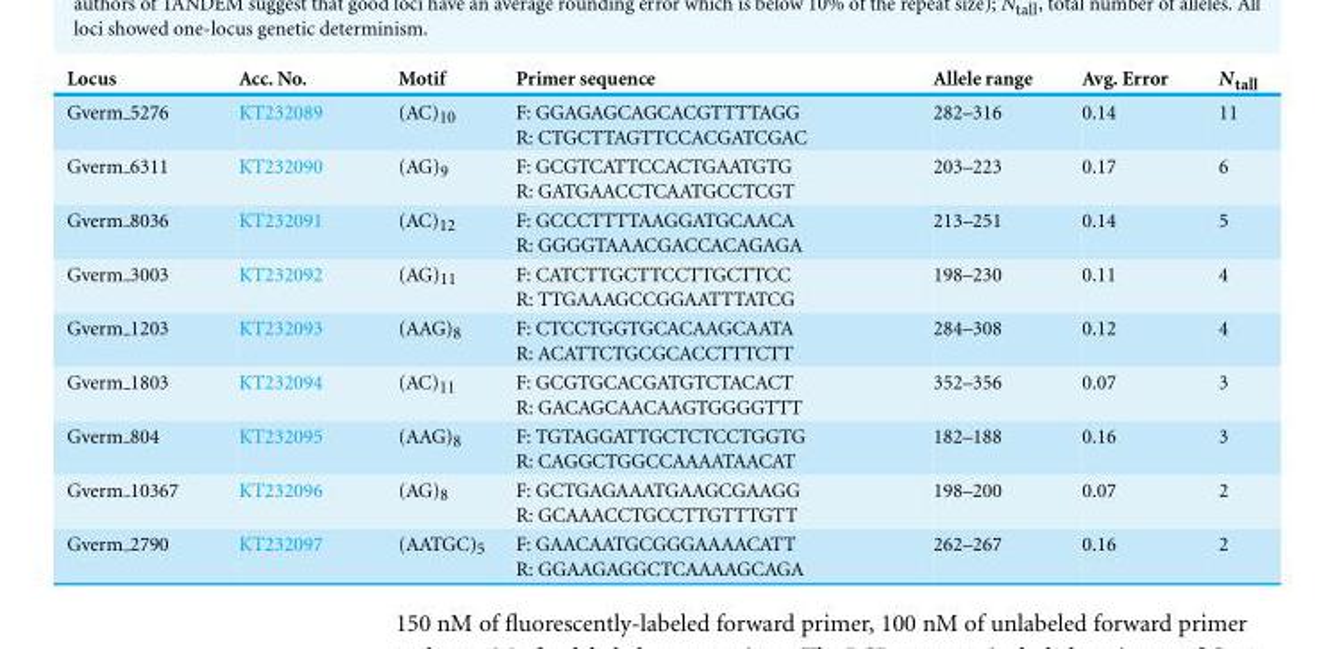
<table><thead><tr><td>Locus</td><td>Acc. No.</td><td>Motif</td><td>Primer sequence</td><td>Allele range</td><td>Avg. Error</td><td>N<sub>tall</sub></td></tr></thead><tbody><tr><td>Gverm 5276</td><td>KT232089</td><td>(AC)<sub>10</sub></td><td>F: GGAGAGCAGCACGTTTTAGG R: CTGCTTAGTTCCACGATCGAC</td><td>282–316</td><td>0.14</td><td>11</td></tr><tr><td>Gverm 6311</td><td>KT232090</td><td>(AG)<sub>9</sub></td><td>F: GCGTCATTCCACTGAATGTG R: GATGAACCTCAATGCCTCGT</td><td>203–223</td><td>0.17</td><td>6</td></tr><tr><td>Gverm 8036</td><td>KT232091</td><td>(AC)<sub>12</sub></td><td>F: GCCCTTTTAAGGATGCAACA R: GGGGTAAACGACCACAGAGA</td><td>213–251</td><td>0.14</td><td>5</td></tr><tr><td>Gverm 3003</td><td>KT232092</td><td>(AG)<sub>11</sub></td><td>F: CATCTTGCTTCCTTGCTTCC R: TTGAAAGCCGGAATTTATCG</td><td>198–230</td><td>0.11</td><td>4</td></tr><tr><td>Gverm 1203</td><td>KT232093</td><td>(AAG)<sub>8</sub></td><td>F: CTCCTGGTGCACAAGCAATA R: ACATTCTGCGCACCTTTCTT</td><td>284–308</td><td>0.12</td><td>4</td></tr><tr><td>Gverm 1803</td><td>KT232094</td><td>(AC)<sub>11</sub></td><td>F: GCGTGCACGATGTCTACACT R: GACAGCAACAAGTGGGGTTT</td><td>352–356</td><td>0.07</td><td>3</td></tr><tr><td>Gverm 804</td><td>KT232095</td><td>(AAG)<sub>8</sub></td><td>F: TGTAGGATTGCTCTCCTGGTG R: CAGGCTGGCCAAAATAACAT</td><td>182–188</td><td>0.16</td><td>3</td></tr><tr><td>Gverm 10367</td><td>KT232096</td><td>(AG)<sub>8</sub></td><td>F: GCTGAGAAATGAAGCGAAGG R: GCAAACCTGCCTTGTTTGTT</td><td>198–200</td><td>0.07</td><td>2</td></tr><tr><td>Gverm 2790</td><td>KT232097</td><td>(AATGC)<sub>5</sub></td><td>F: GAACAATGCGGGAAAACATT R: GGAAGAGGCTCAAAAGCAGA</td><td>262–267</td><td>0.16</td><td>2</td></tr></tbody></table>